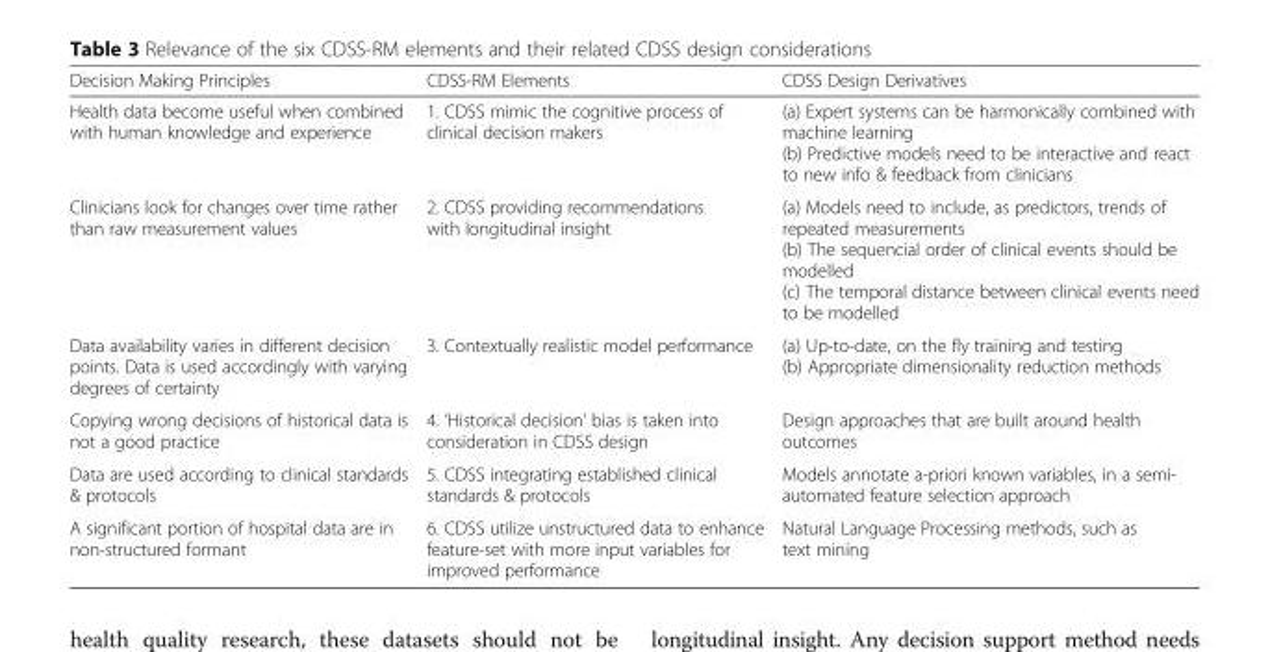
<table><thead><tr><td>Decision Making Principles</td><td>CDSS-RM Elements</td><td>CDSS Design Derivatives</td></tr></thead><tbody><tr><td>Health data become useful when combined with human knowledge and experience</td><td>1. CDSS mimic the cognitive process of clinical decision makers</td><td>(a) Expert systems can be harmonically combined with machine learning (b) Predictive models need to be interactive and react to new info &amp; feedback from clinicians</td></tr><tr><td>Clinicians look for changes over time rather than raw measurement values</td><td>2. CDSS providing recommendations with longitudinal insight</td><td>(a) Models need to include, as predictors, trends of repeated measurements (b) The sequencial order of clinical events should be modelled (c) The temporal distance between clinical events need to be modelled</td></tr><tr><td>Data availability varies in different decision points. Data is used accordingly with varying degrees of certainty</td><td>3. Contextually realistic model performance</td><td>(a) Up-to-date, on the fly training and testing (b) Appropriate dimensionality reduction methods</td></tr><tr><td>Copying wrong decisions of historical data is not a good practice</td><td>4. ‘Historical decision’ bias is taken into consideration in CDSS design</td><td>Design approaches that are built around health outcomes</td></tr><tr><td>Data are used according to clinical standards &amp; protocols</td><td>5. CDSS integrating established clinical standards &amp; protocols</td><td>Models annotate a-priori known variables, in a semi- automated feature selection approach</td></tr><tr><td>A significant portion of hospital data are in non-structured formant</td><td>6. CDSS utilize unstructured data to enhance feature-set with more input variables for improved performance</td><td>Natural Language Processing methods, such as text mining</td></tr></tbody></table>